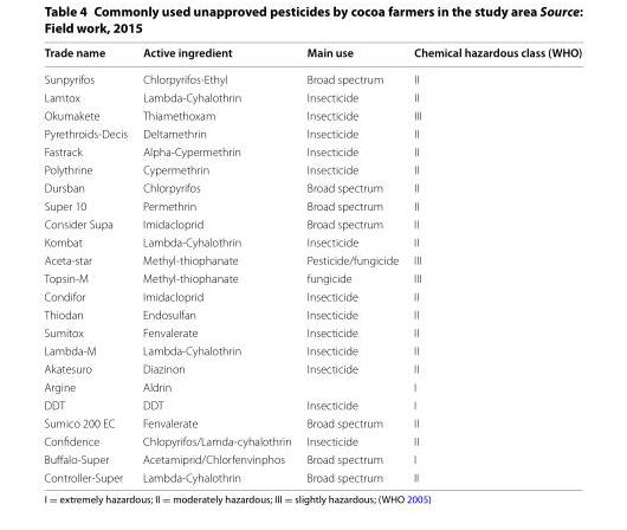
<table><thead><tr><td>Trade name</td><td>Active ingredient</td><td>Main use</td><td>Chemical hazardous class (WHO)</td></tr></thead><tbody><tr><td>Sunpyrifos</td><td>Chlorpyrifos-Ethyl</td><td>Broad spectrum</td><td>II</td></tr><tr><td>Lamtox</td><td>Lambda-Cyhalothrin</td><td>Insecticide</td><td>II</td></tr><tr><td>Okumakete</td><td>Thiamethoxam</td><td>Insecticide</td><td>III</td></tr><tr><td>Pyrethroids-Decis</td><td>Deltamethrin</td><td>Insecticide</td><td>II</td></tr><tr><td>Fastrack</td><td>Alpha-Cypermethrin</td><td>Insecticide</td><td>II</td></tr><tr><td>Polythrine</td><td>Cypermethrin</td><td>Insecticide</td><td>II</td></tr><tr><td>Dursban</td><td>Chlorpyrifos</td><td>Broad spectrum</td><td>II</td></tr><tr><td>Super 10</td><td>Permethrin</td><td>Broad spectrum</td><td>II</td></tr><tr><td>Consider Supa</td><td>Imidacloprid</td><td>Broad spectrum</td><td>II</td></tr><tr><td>Kombat</td><td>Lambda-Cyhalothrin</td><td>Insecticide</td><td>II</td></tr><tr><td>Aceta-star</td><td>Methyl-thiophanate</td><td>Pesticide/fungicide</td><td>III</td></tr><tr><td>Topsin-M</td><td>Methyl-thiophanate</td><td>fungicide</td><td>III</td></tr><tr><td>Condifor</td><td>Imidacloprid</td><td>Insecticide</td><td>II</td></tr><tr><td>Thiodan</td><td>Endosulfan</td><td>Insecticide</td><td>II</td></tr><tr><td>Sumitox</td><td>Fenvalerate</td><td>Insecticide</td><td>II</td></tr><tr><td>Lambda-M</td><td>Lambda-Cyhalothrin</td><td>Insecticide</td><td>II</td></tr><tr><td>Akatesuro</td><td>Diazinon</td><td>Insecticide</td><td>II</td></tr><tr><td>Argine</td><td>Aldrin</td><td></td><td>I</td></tr><tr><td>DDT</td><td>DDT</td><td>Insecticide</td><td>I</td></tr><tr><td>Sumico 200 EC</td><td>Fenvalerate</td><td>Broad spectrum</td><td>II</td></tr><tr><td>Confidence</td><td>Chlopyrifos/Lamda-cyhalothrin</td><td>Insecticide</td><td>II</td></tr><tr><td>Buffalo-Super</td><td>Acetamiprid/Chlorfenvinphos</td><td>Broad spectrum</td><td>I</td></tr><tr><td>Controller-Super</td><td>Lambda-Cyhalothrin</td><td>Broad spectrum</td><td>II</td></tr></tbody></table>